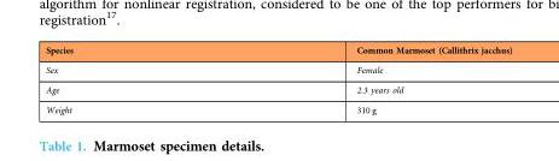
<table><thead><tr><td>Species</td><td>Common Marmoset (Callithrix jacchus)</td></tr></thead><tbody><tr><td>Sex</td><td>Female</td></tr><tr><td>Age</td><td>2.3 years old</td></tr><tr><td>Weight</td><td>310 g</td></tr></tbody></table>